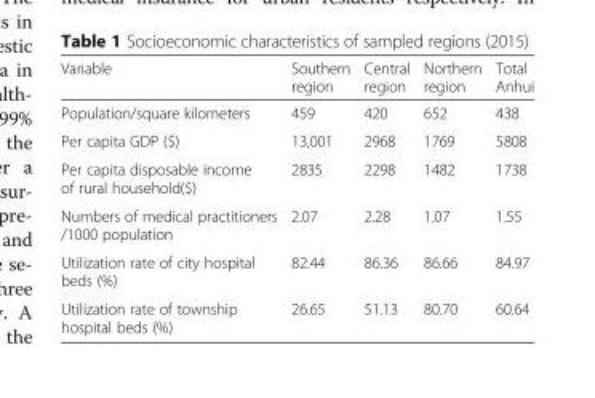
<table><thead><tr><td>Variable</td><td>Southern region</td><td>Central region</td><td>Northern region</td><td>Total Anhui</td></tr></thead><tbody><tr><td>Population/square kilometers</td><td>459</td><td>420</td><td>652</td><td>438</td></tr><tr><td>Per capita GDP ($)</td><td>13,001</td><td>2968</td><td>1769</td><td>5808</td></tr><tr><td>Per capita disposable income of rural household($)</td><td>2835</td><td>2298</td><td>1482</td><td>1738</td></tr><tr><td>Numbers of medical practitioners /1000 population</td><td>2.07</td><td>2.28</td><td>1.07</td><td>1.55</td></tr><tr><td>Utilization rate of city hospital beds (%)</td><td>82.44</td><td>86.36</td><td>86.66</td><td>84.97</td></tr><tr><td>Utilization rate of township hospital beds (%)</td><td>26.65</td><td>51.13</td><td>80.70</td><td>60.64</td></tr></tbody></table>